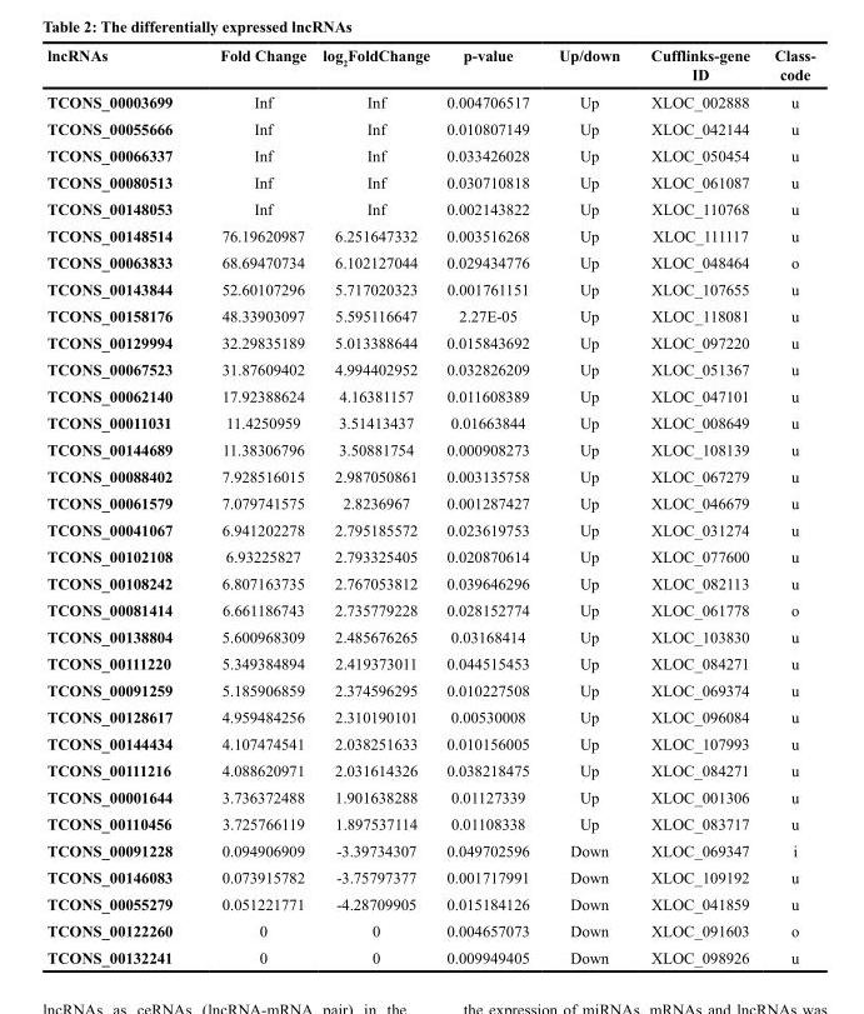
<table><thead><tr><td>lncRNAs</td><td>Fold Change</td><td>log<sub>2</sub>FoldChange</td><td>p-value</td><td>Up/down</td><td>Cufflinks-gene ID</td><td>Class- code</td></tr></thead><tbody><tr><td>TCONS_00003699</td><td>Inf</td><td>Inf</td><td>0.004706517</td><td>Up</td><td>XLOC_002888</td><td>u</td></tr><tr><td>TCONS_00055666</td><td>Inf</td><td>Inf</td><td>0.010807149</td><td>Up</td><td>XLOC_042144</td><td>u</td></tr><tr><td>TCONS_00066337</td><td>Inf</td><td>Inf</td><td>0.033426028</td><td>Up</td><td>XLOC_050454</td><td>u</td></tr><tr><td>TCONS_00080513</td><td>Inf</td><td>Inf</td><td>0.030710818</td><td>Up</td><td>XLOC_061087</td><td>u</td></tr><tr><td>TCONS_00148053</td><td>Inf</td><td>Inf</td><td>0.002143822</td><td>Up</td><td>XLOC_110768</td><td>u</td></tr><tr><td>TCONS_00148514</td><td>76.19620987</td><td>6.251647332</td><td>0.003516268</td><td>Up</td><td>XLOC_111117</td><td>u</td></tr><tr><td>TCONS_00063833</td><td>68.69470734</td><td>6.102127044</td><td>0.029434776</td><td>Up</td><td>XLOC_048464</td><td>o</td></tr><tr><td>TCONS_00143844</td><td>52.60107296</td><td>5.717020323</td><td>0.001761151</td><td>Up</td><td>XLOC_107655</td><td>u</td></tr><tr><td>TCONS_00158176</td><td>48.33903097</td><td>5.595116647</td><td>2.27E-05</td><td>Up</td><td>XLOC_118081</td><td>u</td></tr><tr><td>TCONS_00129994</td><td>32.29835189</td><td>5.013388644</td><td>0.015843692</td><td>Up</td><td>XLOC_097220</td><td>u</td></tr><tr><td>TCONS_00067523</td><td>31.87609402</td><td>4.994402952</td><td>0.032826209</td><td>Up</td><td>XLOC_051367</td><td>u</td></tr><tr><td>TCONS_00062140</td><td>17.92388624</td><td>4.16381157</td><td>0.011608389</td><td>Up</td><td>XLOC_047101</td><td>u</td></tr><tr><td>TCONS_00011031</td><td>11.4250959</td><td>3.51413437</td><td>0.01663844</td><td>Up</td><td>XLOC_008649</td><td>u</td></tr><tr><td>TCONS_00144689</td><td>11.38306796</td><td>3.50881754</td><td>0.000908273</td><td>Up</td><td>XLOC_108139</td><td>u</td></tr><tr><td>TCONS_00088402</td><td>7.928516015</td><td>2.987050861</td><td>0.003135758</td><td>Up</td><td>XLOC_067279</td><td>u</td></tr><tr><td>TCONS_00061579</td><td>7.079741575</td><td>2.8236967</td><td>0.001287427</td><td>Up</td><td>XLOC_046679</td><td>u</td></tr><tr><td>TCONS_00041067</td><td>6.941202278</td><td>2.795185572</td><td>0.023619753</td><td>Up</td><td>XLOC_031274</td><td>u</td></tr><tr><td>TCONS_00102108</td><td>6.93225827</td><td>2.793325405</td><td>0.020870614</td><td>Up</td><td>XLOC_077600</td><td>u</td></tr><tr><td>TCONS_00108242</td><td>6.807163735</td><td>2.767053812</td><td>0.039646296</td><td>Up</td><td>XLOC_082113</td><td>u</td></tr><tr><td>TCONS_00081414</td><td>6.661186743</td><td>2.735779228</td><td>0.028152774</td><td>Up</td><td>XLOC_061778</td><td>o</td></tr><tr><td>TCONS_00138804</td><td>5.600968309</td><td>2.485676265</td><td>0.03168414</td><td>Up</td><td>XLOC_103830</td><td>u</td></tr><tr><td>TCONS_00111220</td><td>5.349384894</td><td>2.419373011</td><td>0.044515453</td><td>Up</td><td>XLOC_084271</td><td>u</td></tr><tr><td>TCONS_00091259</td><td>5.185906859</td><td>2.374596295</td><td>0.010227508</td><td>Up</td><td>XLOC_069374</td><td>u</td></tr><tr><td>TCONS_00128617</td><td>4.959484256</td><td>2.310190101</td><td>0.00530008</td><td>Up</td><td>XLOC_096084</td><td>u</td></tr><tr><td>TCONS_00144434</td><td>4.107474541</td><td>2.038251633</td><td>0.010156005</td><td>Up</td><td>XLOC_107993</td><td>u</td></tr><tr><td>TCONS_00111216</td><td>4.088620971</td><td>2.031614326</td><td>0.038218475</td><td>Up</td><td>XLOC_084271</td><td>u</td></tr><tr><td>TCONS_00001644</td><td>3.736372488</td><td>1.901638288</td><td>0.01127339</td><td>Up</td><td>XLOC_001306</td><td>u</td></tr><tr><td>TCONS_00110456</td><td>3.725766119</td><td>1.897537114</td><td>0.01108338</td><td>Up</td><td>XLOC_083717</td><td>u</td></tr><tr><td>TCONS_00091228</td><td>0.094906909</td><td>-3.39734307</td><td>0.049702596</td><td>Down</td><td>XLOC_069347</td><td>i</td></tr><tr><td>TCONS_00146083</td><td>0.073915782</td><td>-3.75797377</td><td>0.001717991</td><td>Down</td><td>XLOC_109192</td><td>u</td></tr><tr><td>TCONS_00055279</td><td>0.051221771</td><td>-4.28709905</td><td>0.015184126</td><td>Down</td><td>XLOC_041859</td><td>u</td></tr><tr><td>TCONS_00122260</td><td>0</td><td>0</td><td>0.004657073</td><td>Down</td><td>XLOC_091603</td><td>o</td></tr><tr><td>TCONS_00132241</td><td>0</td><td>0</td><td>0.009949405</td><td>Down</td><td>XLOC_098926</td><td>u</td></tr></tbody></table>